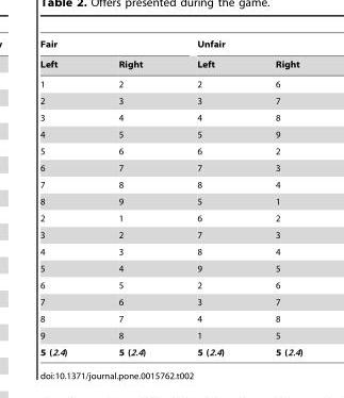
<table><thead><tr><td colspan="2">Fair</td><td colspan="2">Unfair</td></tr><tr><td>Left</td><td>Right</td><td>Left</td><td>Right</td></tr></thead><tbody><tr><td>1</td><td>2</td><td>2</td><td>6</td></tr><tr><td>2</td><td>3</td><td>3</td><td>7</td></tr><tr><td>3</td><td>4</td><td>4</td><td>8</td></tr><tr><td>4</td><td>5</td><td>5</td><td>9</td></tr><tr><td>5</td><td>6</td><td>6</td><td>2</td></tr><tr><td>6</td><td>7</td><td>7</td><td>3</td></tr><tr><td>7</td><td>8</td><td>8</td><td>4</td></tr><tr><td>8</td><td>9</td><td>5</td><td>1</td></tr><tr><td>2</td><td>1</td><td>6</td><td>2</td></tr><tr><td>3</td><td>2</td><td>7</td><td>3</td></tr><tr><td>4</td><td>3</td><td>8</td><td>4</td></tr><tr><td>5</td><td>4</td><td>9</td><td>5</td></tr><tr><td>6</td><td>5</td><td>2</td><td>6</td></tr><tr><td>7</td><td>6</td><td>3</td><td>7</td></tr><tr><td>8</td><td>7</td><td>4</td><td>8</td></tr><tr><td>9</td><td>8</td><td>1</td><td>5</td></tr><tr><td>5 (2.4)</td><td>5 (2.4)</td><td>5 (2.4)</td><td>5 (2.4)</td></tr></tbody></table>